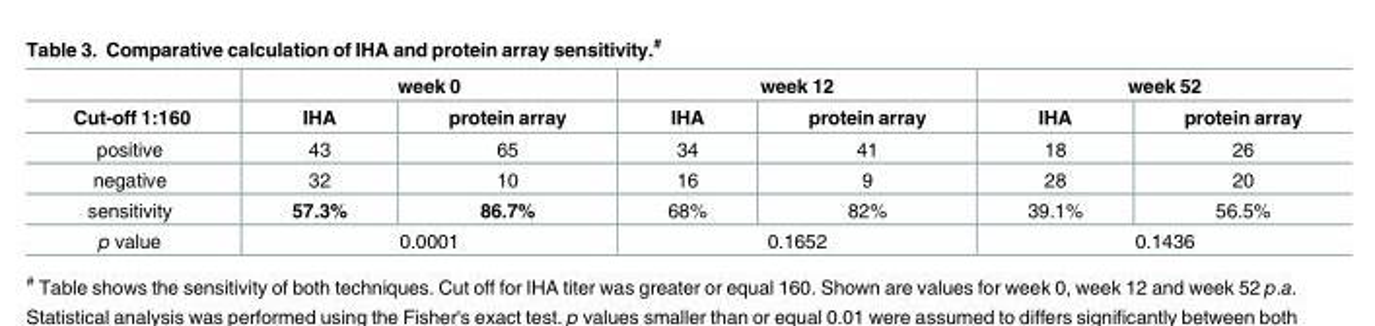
<table><thead><tr><td rowspan="2">Cut-off 1:160</td><td colspan="2">week 0</td><td colspan="2">week 12</td><td colspan="2">week 52</td></tr><tr><td>IHA</td><td>protein array</td><td>IHA</td><td>protein array</td><td>IHA</td><td>protein array</td></tr></thead><tbody><tr><td>positive</td><td>43</td><td>65</td><td>34</td><td>41</td><td>18</td><td>26</td></tr><tr><td>negative</td><td>32</td><td>10</td><td>16</td><td>9</td><td>28</td><td>20</td></tr><tr><td>sensitivity</td><td>57.3%</td><td>86.7%</td><td>68%</td><td>82%</td><td>39.1%</td><td>56.5%</td></tr><tr><td>p value</td><td colspan="2">0.0001</td><td colspan="2">0.1652</td><td colspan="2">0.1436</td></tr></tbody></table>